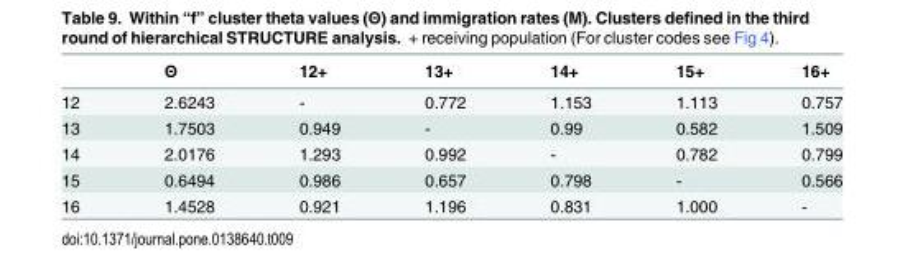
<table><thead><tr><td></td><td>Θ</td><td>12+</td><td>13+</td><td>14+</td><td>15+</td><td>16+</td></tr></thead><tbody><tr><td>12</td><td>2.6243</td><td>-</td><td>0.772</td><td>1.153</td><td>1.113</td><td>0.757</td></tr><tr><td>13</td><td>1.7503</td><td>0.949</td><td>-</td><td>0.99</td><td>0.582</td><td>1.509</td></tr><tr><td>14</td><td>2.0176</td><td>1.293</td><td>0.992</td><td>-</td><td>0.782</td><td>0.799</td></tr><tr><td>15</td><td>0.6494</td><td>0.986</td><td>0.657</td><td>0.798</td><td>-</td><td>0.566</td></tr><tr><td>16</td><td>1.4528</td><td>0.921</td><td>1.196</td><td>0.831</td><td>1.000</td><td>-</td></tr></tbody></table>